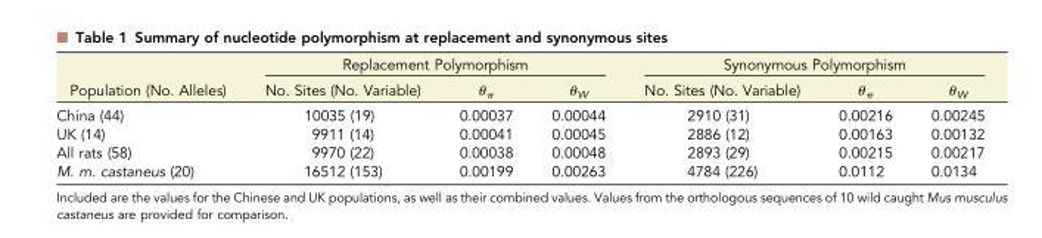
<table><thead><tr><td rowspan="2">Population (No. Alleles)</td><td colspan="3">Replacement Polymorphism</td><td colspan="3">Synonymous Polymorphism</td></tr><tr><td>No. Sites (No. Variable)</td><td>θ<sub>π</sub></td><td>θ<sub>W</sub></td><td>No. Sites (No. Variable)</td><td>θ<sub>π</sub></td><td>θ<sub>W</sub></td></tr></thead><tbody><tr><td>China (44)</td><td>10035 (19)</td><td>0.00037</td><td>0.00044</td><td>2910 (31)</td><td>0.00216</td><td>0.00245</td></tr><tr><td>UK (14)</td><td>9911 (14)</td><td>0.00041</td><td>0.00045</td><td>2886 (12)</td><td>0.00163</td><td>0.00132</td></tr><tr><td>All rats (58)</td><td>9970 (22)</td><td>0.00038</td><td>0.00048</td><td>2893 (29)</td><td>0.00215</td><td>0.00217</td></tr><tr><td>M. m. castaneus (20)</td><td>16512 (153)</td><td>0.00199</td><td>0.00263</td><td>4784 (226)</td><td>0.0112</td><td>0.0134</td></tr></tbody></table>